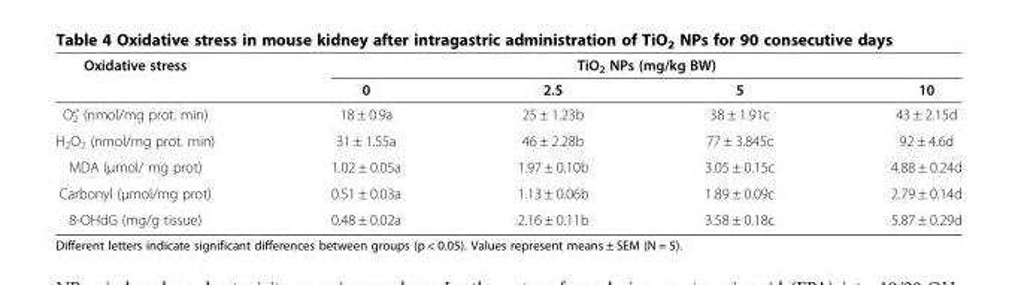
<table><thead><tr><td rowspan="2">Oxidative stress</td><td colspan="4">TiO2 NPs (mg/kg BW)</td></tr><tr><td>0</td><td>2.5</td><td>5</td><td>10</td></tr></thead><tbody><tr><td>O2 .- (nmol/mg prot. min)</td><td>18 ± 0.9a</td><td>25 ± 1.23b</td><td>38 ± 1.91c</td><td>43 ± 2.15d</td></tr><tr><td>H2O2 (nmol/mg prot. min)</td><td>31 ± 1.55a</td><td>46 ± 2.28b</td><td>77 ± 3.845c</td><td>92 ± 4.6d</td></tr><tr><td>MDA (μmol/ mg prot)</td><td>1.02 ± 0.05a</td><td>1.97 ± 0.10b</td><td>3.05 ± 0.15c</td><td>4.88 ± 0.24d</td></tr><tr><td>Carbonyl (μmol/mg prot)</td><td>0.51 ± 0.03a</td><td>1.13 ± 0.06b</td><td>1.89 ± 0.09c</td><td>2.79 ± 0.14d</td></tr><tr><td>8-OHdG (mg/g tissue)</td><td>0.48 ± 0.02a</td><td>2.16 ± 0.11b</td><td>3.58 ± 0.18c</td><td>5.87 ± 0.29d</td></tr></tbody></table>